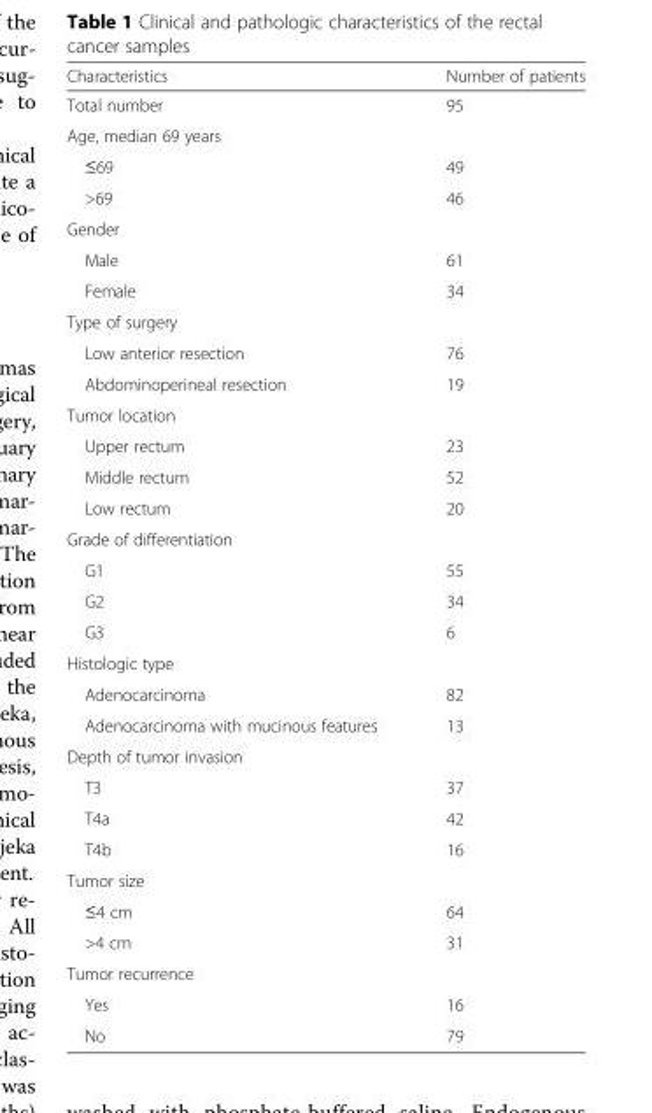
<table><thead><tr><td>Characteristics</td><td>Number of patients</td></tr></thead><tbody><tr><td>Total number</td><td>95</td></tr><tr><td colspan="2">Age, median 69 years</td></tr><tr><td>≤69</td><td>49</td></tr><tr><td>&gt;69</td><td>46</td></tr><tr><td colspan="2">Gender</td></tr><tr><td>Male</td><td>61</td></tr><tr><td>Female</td><td>34</td></tr><tr><td colspan="2">Type of surgery</td></tr><tr><td>Low anterior resection</td><td>76</td></tr><tr><td>Abdominoperineal resection</td><td>19</td></tr><tr><td colspan="2">Tumor location</td></tr><tr><td>Upper rectum</td><td>23</td></tr><tr><td>Middle rectum</td><td>52</td></tr><tr><td>Low rectum</td><td>20</td></tr><tr><td colspan="2">Grade of differentiation</td></tr><tr><td>G1</td><td>55</td></tr><tr><td>G2</td><td>34</td></tr><tr><td>G3</td><td>6</td></tr><tr><td colspan="2">Histologic type</td></tr><tr><td>Adenocarcinoma</td><td>82</td></tr><tr><td>Adenocarcinoma with mucinous features</td><td>13</td></tr><tr><td colspan="2">Depth of tumor invasion</td></tr><tr><td>T3</td><td>37</td></tr><tr><td>T4a</td><td>42</td></tr><tr><td>T4b</td><td>16</td></tr><tr><td colspan="2">Tumor size</td></tr><tr><td>≤4 cm</td><td>64</td></tr><tr><td>&gt;4 cm</td><td>31</td></tr><tr><td colspan="2">Tumor recurrence</td></tr><tr><td>Yes</td><td>16</td></tr><tr><td>No</td><td>79</td></tr></tbody></table>